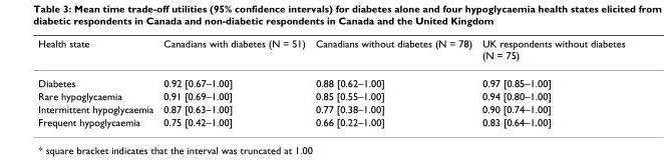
<table><thead><tr><td>Health state</td><td>Canadians with diabetes (N = 51)</td><td>Canadians without diabetes (N = 78)</td><td>UK respondents without diabetes (N = 75)</td></tr></thead><tbody><tr><td>Diabetes</td><td>0.92 [0.67–1.00]</td><td>0.88 [0.62–1.00]</td><td>0.97 [0.85–1.00]</td></tr><tr><td>Rare hypoglycaemia</td><td>0.91 [0.69–1.00]</td><td>0.85 [0.55–1.00]</td><td>0.94 [0.80–1.00]</td></tr><tr><td>Intermittent hypoglycaemia</td><td>0.87 [0.63–1.00]</td><td>0.77 [0.38–1.00]</td><td>0.90 [0.74–1.00]</td></tr><tr><td>Frequent hypoglycaemia</td><td>0.75 [0.42–1.00]</td><td>0.66 [0.22–1.00]</td><td>0.83 [0.64–1.00]</td></tr></tbody></table>